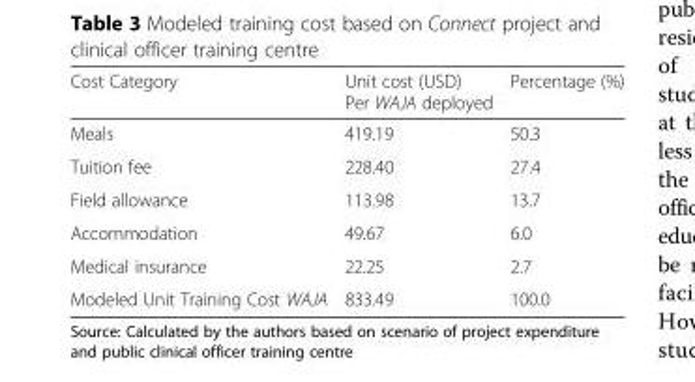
<table><thead><tr><td>Cost Category</td><td>Unit cost (USD) Per WAJA deployed</td><td>Percentage (%)</td></tr></thead><tbody><tr><td>Meals</td><td>419.19</td><td>50.3</td></tr><tr><td>Tuition fee</td><td>228.40</td><td>27.4</td></tr><tr><td>Field allowance</td><td>113.98</td><td>13.7</td></tr><tr><td>Accommodation</td><td>49.67</td><td>6.0</td></tr><tr><td>Medical insurance</td><td>22.25</td><td>2.7</td></tr><tr><td>Modeled Unit Training Cost WAJA</td><td>833.49</td><td>100.0</td></tr></tbody></table>